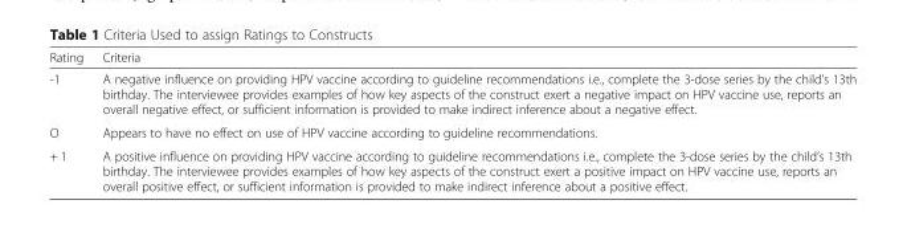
<table><thead><tr><td>Rating</td><td>Criteria</td></tr></thead><tbody><tr><td>-1</td><td>A negative influence on providing HPV vaccine according to guideline recommendations i.e., complete the 3-dose series by the child’s 13th birthday. The interviewee provides examples of how key aspects of the construct exert a negative impact on HPV vaccine use, reports an overall negative effect, or sufficient information is provided to make indirect inference about a negative effect.</td></tr><tr><td>O</td><td>Appears to have no effect on use of HPV vaccine according to guideline recommendations.</td></tr><tr><td>+ 1</td><td>A positive influence on providing HPV vaccine according to guideline recommendations i.e., complete the 3-dose series by the child’s 13th birthday. The interviewee provides examples of how key aspects of the construct exert a positive impact on HPV vaccine use, reports an overall positive effect, or sufficient information is provided to make indirect inference about a positive effect.</td></tr></tbody></table>